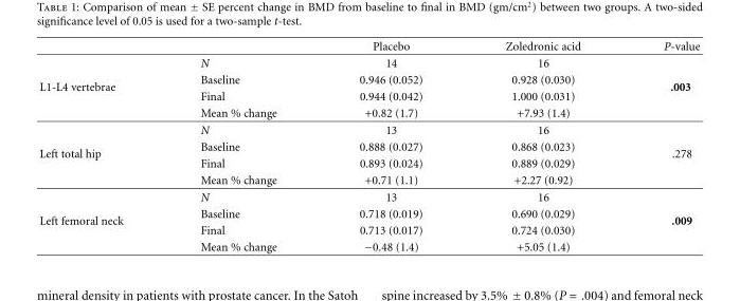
<table><thead><tr><td></td><td></td><td>Placebo</td><td>Zoledronic acid</td><td>P-value</td></tr></thead><tbody><tr><td rowspan="4">L1-L4 vertebrae</td><td>N</td><td>14</td><td>16</td><td rowspan="4">.003</td></tr><tr><td>Baseline</td><td>0.946 (0.052)</td><td>0.928 (0.030)</td></tr><tr><td>Final</td><td>0.944 (0.042)</td><td>1.000 (0.031)</td></tr><tr><td>Mean % change</td><td>+0.82 (1.7)</td><td>+7.93 (1.4)</td></tr><tr><td rowspan="4">Left total hip</td><td>N</td><td>13</td><td>16</td><td rowspan="4">.278</td></tr><tr><td>Baseline</td><td>0.888 (0.027)</td><td>0.868 (0.023)</td></tr><tr><td>Final</td><td>0.893 (0.024)</td><td>0.889 (0.029)</td></tr><tr><td>Mean % change</td><td>+0.71 (1.1)</td><td>+2.27 (0.92)</td></tr><tr><td rowspan="4">Left femoral neck</td><td>N</td><td>13</td><td>16</td><td rowspan="4">.009</td></tr><tr><td>Baseline</td><td>0.718 (0.019)</td><td>0.690 (0.029)</td></tr><tr><td>Final</td><td>0.713 (0.017)</td><td>0.724 (0.030)</td></tr><tr><td>Mean % change</td><td>−0.48 (1.4)</td><td>+5.05 (1.4)</td></tr></tbody></table>